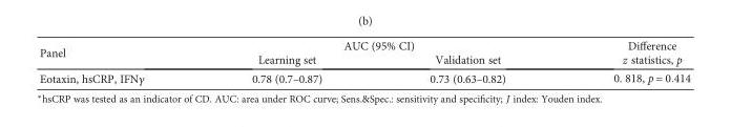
<table><thead><tr><td rowspan="2">Panel</td><td colspan="2">AUC (95% CI)</td><td rowspan="2">Difference z statistics, p</td></tr><tr><td>Learning set</td><td>Validation set</td></tr></thead><tbody><tr><td>Eotaxin, hsCRP, IFNγ</td><td>0.78 (0.7–0.87)</td><td>0.73 (0.63–0.82)</td><td>0. 818, p = 0 414</td></tr></tbody></table>